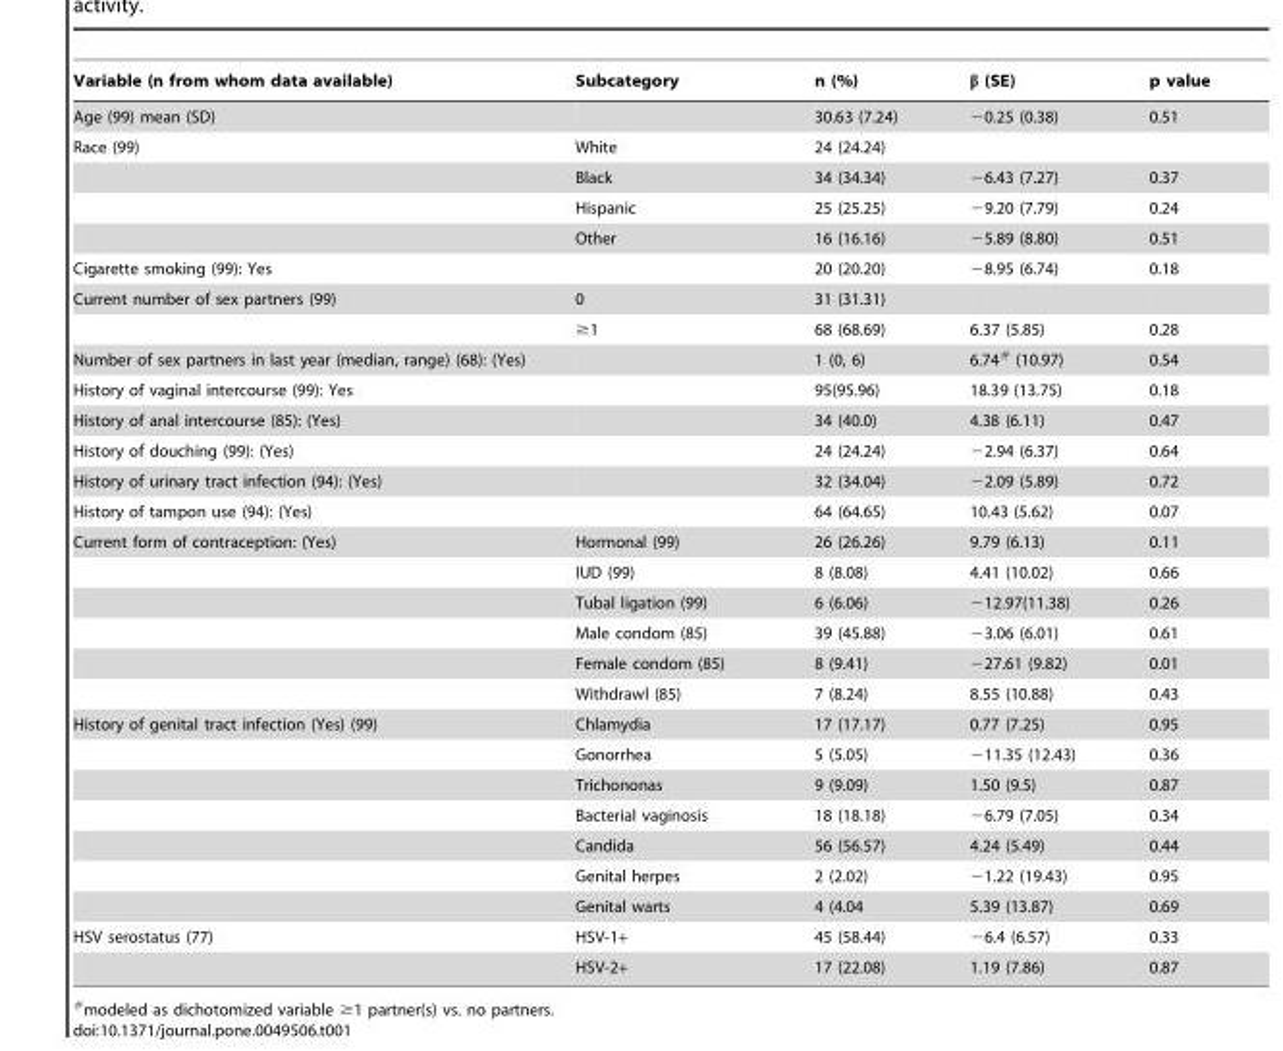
<table><thead><tr><td>Variable (n from whom data available)</td><td>Subcategory</td><td>n (%)</td><td>β (SE)</td><td>p value</td></tr></thead><tbody><tr><td>Age (99) mean (SD)</td><td></td><td>30.63 (7.24)</td><td>−0.25 (0.38)</td><td>0.51</td></tr><tr><td rowspan="4">Race (99)</td><td>White</td><td>24 (24.24)</td><td></td><td></td></tr><tr><td>Black</td><td>34 (34.34)</td><td>−6.43 (7.27)</td><td>0.37</td></tr><tr><td>Hispanic</td><td>25 (25.25)</td><td>−9.20 (7.79)</td><td>0.24</td></tr><tr><td>Other</td><td>16 (16.16)</td><td>−5.89 (8.80)</td><td>0.51</td></tr><tr><td>Cigarette smoking (99): Yes</td><td></td><td>20 (20.20)</td><td>−8.95 (6.74)</td><td>0.18</td></tr><tr><td rowspan="2">Current number of sex partners (99)</td><td>0</td><td>31 (31.31)</td><td></td><td></td></tr><tr><td>≥1</td><td>68 (68.69)</td><td>6.37 (5.85)</td><td>0.28</td></tr><tr><td>Number of sex partners in last year (median, range) (68): (Yes)</td><td></td><td>1 (0, 6)</td><td>6.74# (10.97)</td><td>0.54</td></tr><tr><td>History of vaginal intercourse (99): Yes</td><td></td><td>95(95.96)</td><td>18.39 (13.75)</td><td>0.18</td></tr><tr><td>History of anal intercourse (85): (Yes)</td><td></td><td>34 (40.0)</td><td>4.38 (6.11)</td><td>0.47</td></tr><tr><td>History of douching (99): (Yes)</td><td></td><td>24 (24.24)</td><td>−2.94 (6.37)</td><td>0.64</td></tr><tr><td>History of urinary tract infection (94): (Yes)</td><td></td><td>32 (34.04)</td><td>−2.09 (5.89)</td><td>0.72</td></tr><tr><td>History of tampon use (94): (Yes)</td><td></td><td>64 (64.65)</td><td>10.43 (5.62)</td><td>0.07</td></tr><tr><td rowspan="6">Current form of contraception: (Yes)</td><td>Hormonal (99)</td><td>26 (26.26)</td><td>9.79 (6.13)</td><td>0.11</td></tr><tr><td>IUD (99)</td><td>8 (8.08)</td><td>4.41 (10.02)</td><td>0.66</td></tr><tr><td>Tubal ligation (99)</td><td>6 (6.06)</td><td>−12.97(11.38)</td><td>0.26</td></tr><tr><td>Male condom (85)</td><td>39 (45.88)</td><td>−3.06 (6.01)</td><td>0.61</td></tr><tr><td>Female condom (85)</td><td>8 (9.41)</td><td>−27.61 (9.82)</td><td>0.01</td></tr><tr><td>Withdrawl (85)</td><td>7 (8.24)</td><td>8.55 (10.88)</td><td>0.43</td></tr><tr><td rowspan="7">History of genital tract infection (Yes) (99)</td><td>Chlamydia</td><td>17 (17.17)</td><td>0.77 (7.25)</td><td>0.95</td></tr><tr><td>Gonorrhea</td><td>5 (5.05)</td><td>−11.35 (12.43)</td><td>0.36</td></tr><tr><td>Trichononas</td><td>9 (9.09)</td><td>1.50 (9.5)</td><td>0.87</td></tr><tr><td>Bacterial vaginosis</td><td>18 (18.18)</td><td>−6.79 (7.05)</td><td>0.34</td></tr><tr><td>Candida</td><td>56 (56.57)</td><td>4.24 (5.49)</td><td>0.44</td></tr><tr><td>Genital herpes</td><td>2 (2.02)</td><td>−1.22 (19.43)</td><td>0.95</td></tr><tr><td>Genital warts</td><td>4 (4.04</td><td>5.39 (13.87)</td><td>0.69</td></tr><tr><td rowspan="2">HSV serostatus (77)</td><td>HSV-1+</td><td>45 (58.44)</td><td>−6.4 (6.57)</td><td>0.33</td></tr><tr><td>HSV-2+</td><td>17 (22.08)</td><td>1.19 (7.86)</td><td>0.87</td></tr></tbody></table>